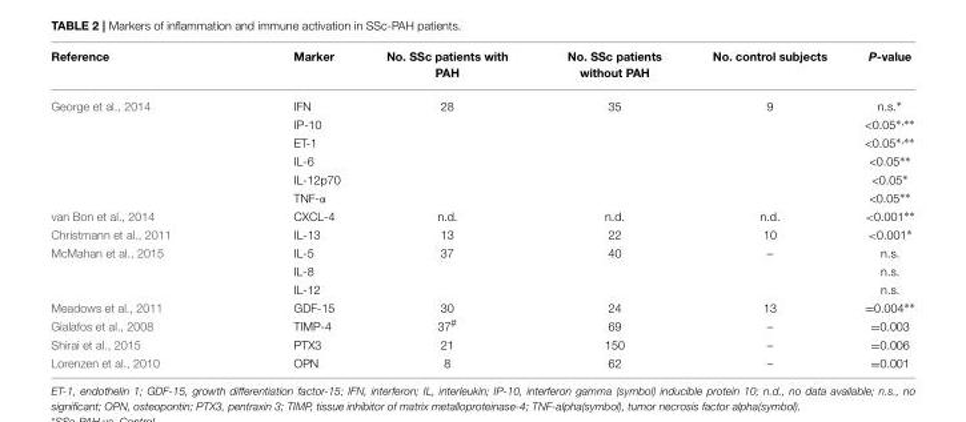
<table><thead><tr><td>Reference</td><td>Marker</td><td>No. SSc patients with PAH</td><td>No. SSc patients without PAH</td><td>No. control subjects</td><td>P-value</td></tr></thead><tbody><tr><td rowspan="6">George et al., 2014</td><td>IFN</td><td>28</td><td>35</td><td>9</td><td>n.s.∗</td></tr><tr><td>IP-10</td><td></td><td></td><td></td><td>&lt;0.05∗,∗∗</td></tr><tr><td>ET-1</td><td></td><td></td><td></td><td>&lt;0.05∗,∗∗</td></tr><tr><td>IL-6</td><td></td><td></td><td></td><td>&lt;0.05∗∗</td></tr><tr><td>IL-12p70</td><td></td><td></td><td></td><td>&lt;0.05∗</td></tr><tr><td>TNF-α</td><td></td><td></td><td></td><td>&lt;0.05∗∗</td></tr><tr><td>van Bon et al., 2014</td><td>CXCL-4</td><td>n.d.</td><td>n.d.</td><td>n.d.</td><td>&lt;0.001∗∗</td></tr><tr><td>Christmann et al., 2011</td><td>IL-13</td><td>13</td><td>22</td><td>10</td><td>&lt;0.001∗</td></tr><tr><td rowspan="3">McMahan et al., 2015</td><td>IL-5</td><td>37</td><td>40</td><td>–</td><td>n.s.</td></tr><tr><td>IL-8</td><td></td><td></td><td></td><td>n.s.</td></tr><tr><td>IL-12</td><td></td><td></td><td></td><td>n.s.</td></tr><tr><td>Meadows et al., 2011</td><td>GDF-15</td><td>30</td><td>24</td><td>13</td><td>=0.004∗∗</td></tr><tr><td>Gialafos et al., 2008</td><td>TIMP-4</td><td>37<sup>#</sup></td><td>69</td><td>–</td><td>=0.003</td></tr><tr><td>Shirai et al., 2015</td><td>PTX3</td><td>21</td><td>150</td><td>–</td><td>=0.006</td></tr><tr><td>Lorenzen et al., 2010</td><td>OPN</td><td>8</td><td>62</td><td>–</td><td>=0.001</td></tr></tbody></table>